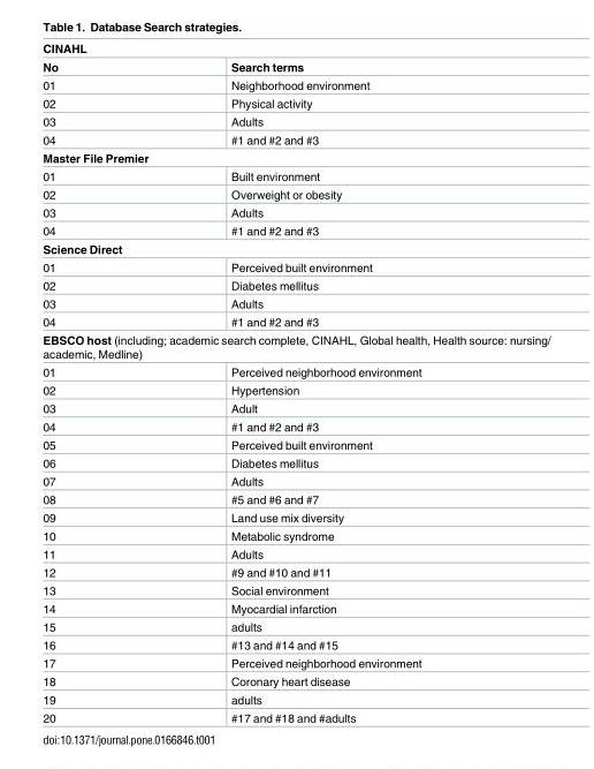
<table><thead><tr><td colspan="2">CINAHL</td></tr><tr><td>No</td><td>Search terms</td></tr></thead><tbody><tr><td>01</td><td>Neighborhood environment</td></tr><tr><td>02</td><td>Physical activity</td></tr><tr><td>03</td><td>Adults</td></tr><tr><td>04</td><td>#1 and #2 and #3</td></tr><tr><td colspan="2">Master File Premier</td></tr><tr><td>01</td><td>Built environment</td></tr><tr><td>02</td><td>Overweight or obesity</td></tr><tr><td>03</td><td>Adults</td></tr><tr><td>04</td><td>#1 and #2 and #3</td></tr><tr><td colspan="2">Science Direct</td></tr><tr><td>01</td><td>Perceived built environment</td></tr><tr><td>02</td><td>Diabetes mellitus</td></tr><tr><td>03</td><td>Adults</td></tr><tr><td>04</td><td>#1 and #2 and #3</td></tr><tr><td colspan="2">EBSCO host (including; academic search complete, CINAHL, Global health, Health source: nursing/ academic, Medline)</td></tr><tr><td>01</td><td>Perceived neighborhood environment</td></tr><tr><td>02</td><td>Hypertension</td></tr><tr><td>03</td><td>Adult</td></tr><tr><td>04</td><td>#1 and #2 and #3</td></tr><tr><td>05</td><td>Perceived built environment</td></tr><tr><td>06</td><td>Diabetes mellitus</td></tr><tr><td>07</td><td>Adults</td></tr><tr><td>08</td><td>#5 and #6 and #7</td></tr><tr><td>09</td><td>Land use mix diversity</td></tr><tr><td>10</td><td>Metabolic syndrome</td></tr><tr><td>11</td><td>Adults</td></tr><tr><td>12</td><td>#9 and #10 and #11</td></tr><tr><td>13</td><td>Social environment</td></tr><tr><td>14</td><td>Myocardial infarction</td></tr><tr><td>15</td><td>adults</td></tr><tr><td>16</td><td>#13 and #14 and #15</td></tr><tr><td>17</td><td>Perceived neighborhood environment</td></tr><tr><td>18</td><td>Coronary heart disease</td></tr><tr><td>19</td><td>adults</td></tr><tr><td>20</td><td>#17 and #18 and #adults</td></tr></tbody></table>